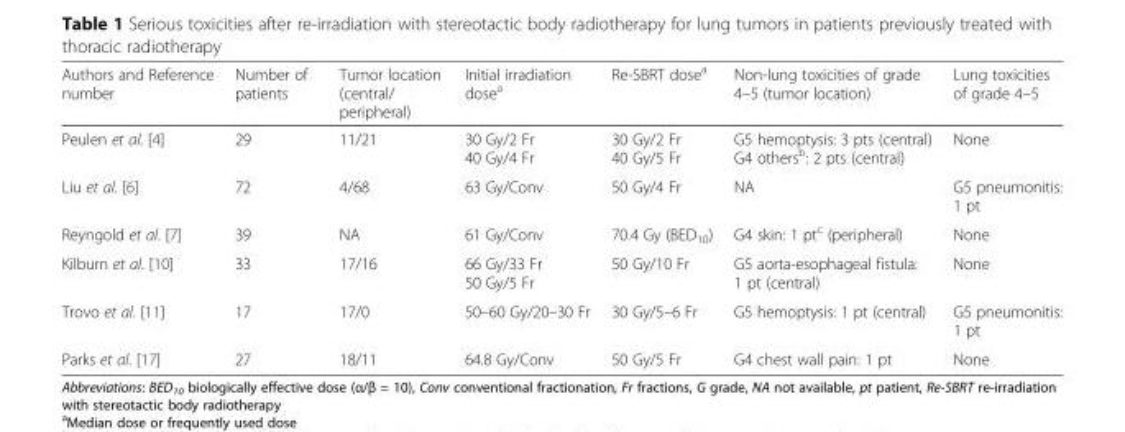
<table><thead><tr><td>Authors and Reference number</td><td>Number of patients</td><td>Tumor location (central/ peripheral)</td><td>Initial irradiation dose<sup>a</sup></td><td>Re-SBRT dose<sup>a</sup></td><td>Non-lung toxicities of grade 4–5 (tumor location)</td><td>Lung toxicities of grade 4–5</td></tr></thead><tbody><tr><td>Peulen et al. [4]</td><td>29</td><td>11/21</td><td>30 Gy/2 Fr 40 Gy/4 Fr</td><td>30 Gy/2 Fr 40 Gy/5 Fr</td><td>G5 hemoptysis: 3 pts (central) G4 others<sup>b</sup>: 2 pts (central)</td><td>None</td></tr><tr><td>Liu et al. [6]</td><td>72</td><td>4/68</td><td>63 Gy/Conv</td><td>50 Gy/4 Fr</td><td>NA</td><td>G5 pneumonitis: 1 pt</td></tr><tr><td>Reyngold et al. [7]</td><td>39</td><td>NA</td><td>61 Gy/Conv</td><td>70.4 Gy (BED<sub>10</sub>)</td><td>G4 skin: 1 pt<sup>c</sup> (peripheral)</td><td>None</td></tr><tr><td>Kilburn et al. [10]</td><td>33</td><td>17/16</td><td>66 Gy/33 Fr 50 Gy/5 Fr</td><td>50 Gy/10 Fr</td><td>G5 aorta-esophageal fistula: 1 pt (central)</td><td>None</td></tr><tr><td>Trovo et al. [11]</td><td>17</td><td>17/0</td><td>50–60 Gy/20–30 Fr</td><td>30 Gy/5–6 Fr</td><td>G5 hemoptysis: 1 pt (central)</td><td>G5 pneumonitis: 1 pt</td></tr><tr><td>Parks et al. [17]</td><td>27</td><td>18/11</td><td>64.8 Gy/Conv</td><td>50 Gy/5 Fr</td><td>G4 chest wall pain: 1 pt</td><td>None</td></tr></tbody></table>